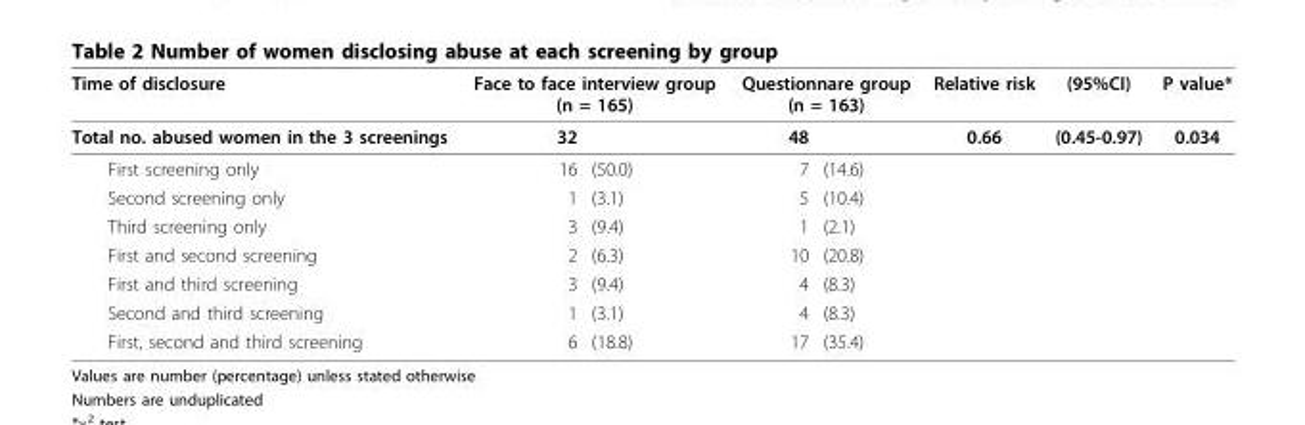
<table><thead><tr><td rowspan="2">Time of disclosure Total no. abused women in the 3 screenings</td><td colspan="2">Face to face interview group (n = 165)</td><td colspan="2">Questionnare group (n = 163)</td><td rowspan="2">Relative risk 0.66</td><td rowspan="2">(95%CI) (0.45-0.97)</td><td rowspan="2">P value* 0.034</td></tr><tr><td>32</td><td></td><td>48</td><td></td></tr></thead><tbody><tr><td>First screening only</td><td>16</td><td>(50.0)</td><td>7</td><td>(14.6)</td><td></td><td></td><td></td></tr><tr><td>Second screening only</td><td>1</td><td>(3.1)</td><td>5</td><td>(10.4)</td><td></td><td></td><td></td></tr><tr><td>Third screening only</td><td>3</td><td>(9.4)</td><td>1</td><td>(2.1)</td><td></td><td></td><td></td></tr><tr><td>First and second screening</td><td>2</td><td>(6.3)</td><td>10</td><td>(20.8)</td><td></td><td></td><td></td></tr><tr><td>First and third screening</td><td>3</td><td>(9.4)</td><td>4</td><td>(8.3)</td><td></td><td></td><td></td></tr><tr><td>Second and third screening</td><td>1</td><td>(3.1)</td><td>4</td><td>(8.3)</td><td></td><td></td><td></td></tr><tr><td>First, second and third screening</td><td>6</td><td>(18.8)</td><td>17</td><td>(35.4)</td><td></td><td></td><td></td></tr></tbody></table>